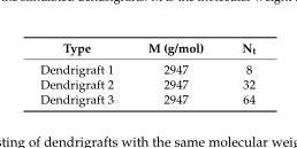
<table><thead><tr><td>Type</td><td>M (g/mol)</td><td>N<sub>t</sub></td></tr></thead><tbody><tr><td>Dendrigraft 1</td><td>2947</td><td>8</td></tr><tr><td>Dendrigraft 2</td><td>2947</td><td>32</td></tr><tr><td>Dendrigraft 3</td><td>2947</td><td>64</td></tr></tbody></table>